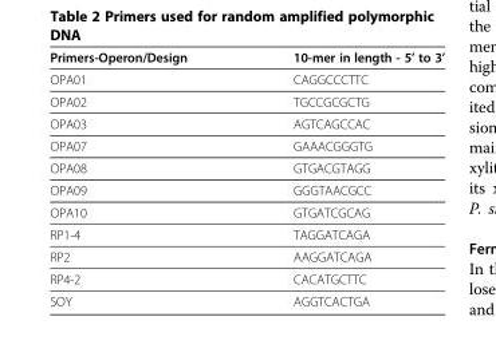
<table><thead><tr><td>Primers-Operon/Design</td><td>10-mer in length - 5’ to 3’</td></tr></thead><tbody><tr><td>OPA01</td><td>CAGGCCCTTC</td></tr><tr><td>OPA02</td><td>TGCCGCGCTG</td></tr><tr><td>OPA03</td><td>AGTCAGCCAC</td></tr><tr><td>OPA07</td><td>GAAACGGGTG</td></tr><tr><td>OPA08</td><td>GTGACGTAGG</td></tr><tr><td>OPA09</td><td>GGGTAACGCC</td></tr><tr><td>OPA10</td><td>GTGATCGCAG</td></tr><tr><td>RP1-4</td><td>TAGGATCAGA</td></tr><tr><td>RP2</td><td>AAGGATCAGA</td></tr><tr><td>RP4-2</td><td>CACATGCTTC</td></tr><tr><td>SOY</td><td>AGGTCACTGA</td></tr></tbody></table>